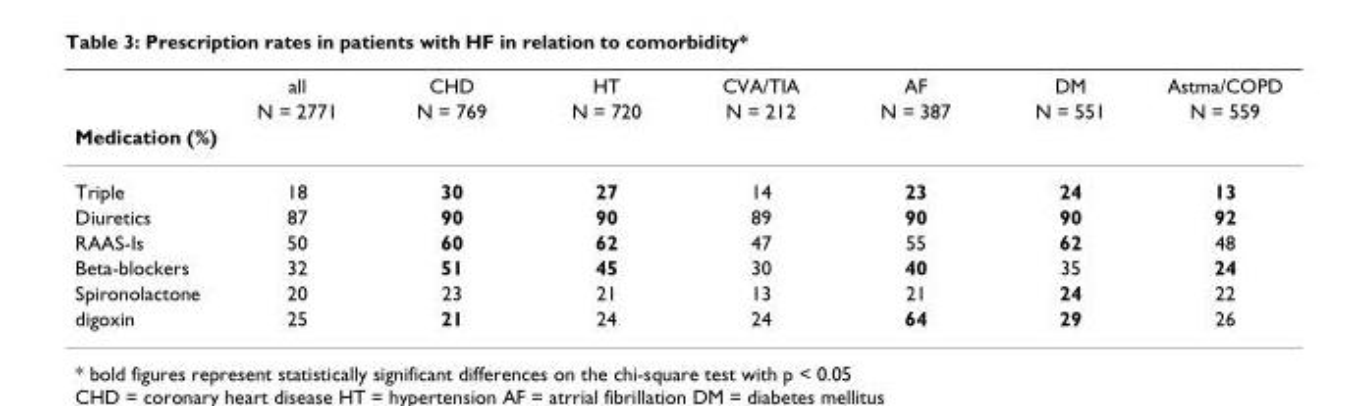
<table><thead><tr><td rowspan="2"></td><td rowspan="2">all N = 2771</td><td rowspan="2">CHD N = 769</td><td rowspan="2">HT N = 720</td><td rowspan="2">CVA/TIA N = 212</td><td rowspan="2">AF N = 387</td><td rowspan="2">DM N = 551</td><td rowspan="2">Astma/COPD N = 559</td></tr><tr></tr><tr><td colspan="8">Medication (%)</td></tr></thead><tbody><tr><td>Triple</td><td>18</td><td>30</td><td>27</td><td>14</td><td>23</td><td>24</td><td>13</td></tr><tr><td>Diuretics</td><td>87</td><td>90</td><td>90</td><td>89</td><td>90</td><td>90</td><td>92</td></tr><tr><td>RAAS-Is</td><td>50</td><td>60</td><td>62</td><td>47</td><td>55</td><td>62</td><td>48</td></tr><tr><td>Beta-blockers</td><td>32</td><td>51</td><td>45</td><td>30</td><td>40</td><td>35</td><td>24</td></tr><tr><td>Spironolactone</td><td>20</td><td>23</td><td>21</td><td>13</td><td>21</td><td>24</td><td>22</td></tr><tr><td>digoxin</td><td>25</td><td>21</td><td>24</td><td>24</td><td>64</td><td>29</td><td>26</td></tr></tbody></table>